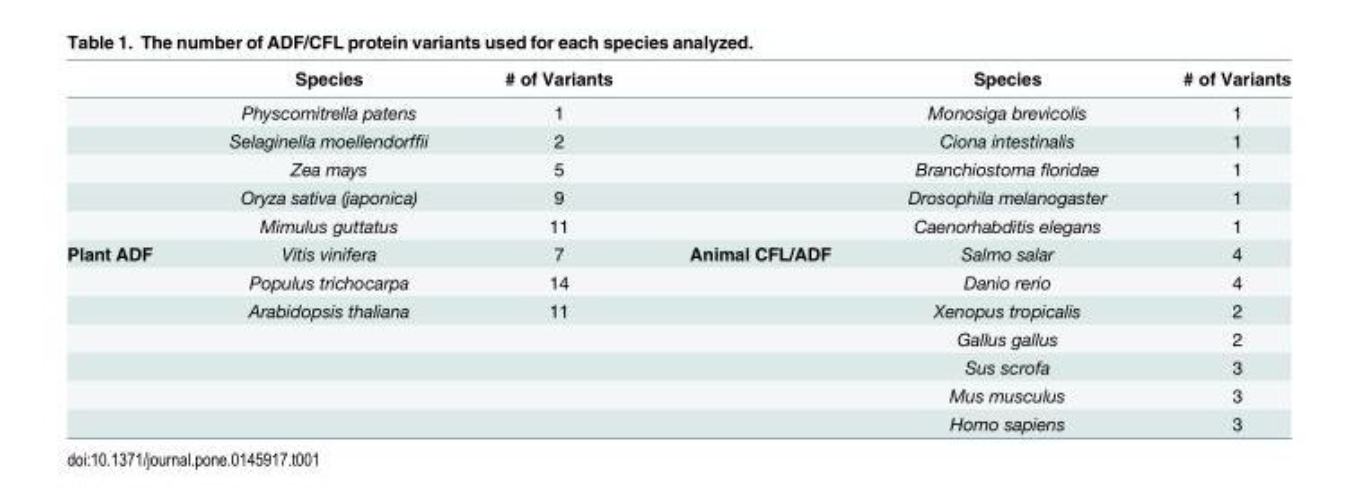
<table><thead><tr><td></td><td>Species</td><td># of Variants</td><td></td><td>Species</td><td># of Variants</td></tr></thead><tbody><tr><td></td><td>Physcomitrella patens</td><td>1</td><td></td><td>Monosiga brevicolis</td><td>1</td></tr><tr><td></td><td>Selaginella moellendorffii</td><td>2</td><td></td><td>Ciona intestinalis</td><td>1</td></tr><tr><td></td><td>Zea mays</td><td>5</td><td></td><td>Branchiostoma floridae</td><td>1</td></tr><tr><td></td><td>Oryza sativa (japonica)</td><td>9</td><td></td><td>Drosophila melanogaster</td><td>1</td></tr><tr><td></td><td>Mimulus guttatus</td><td>11</td><td></td><td>Caenorhabditis elegans</td><td>1</td></tr><tr><td rowspan="7">Plant ADF</td><td>Vitis vinifera</td><td>7</td><td>Animal CFL/ADF</td><td>Salmo salar</td><td>4</td></tr><tr><td>Populus trichocarpa</td><td>14</td><td></td><td>Danio rerio</td><td>4</td></tr><tr><td>Arabidopsis thaliana</td><td>11</td><td></td><td>Xenopus tropicalis</td><td>2</td></tr><tr><td></td><td></td><td></td><td>Gallus gallus</td><td>2</td></tr><tr><td></td><td></td><td></td><td>Sus scrofa</td><td>3</td></tr><tr><td></td><td></td><td></td><td>Mus musculus</td><td>3</td></tr><tr><td></td><td></td><td></td><td>Homo sapiens</td><td>3</td></tr></tbody></table>